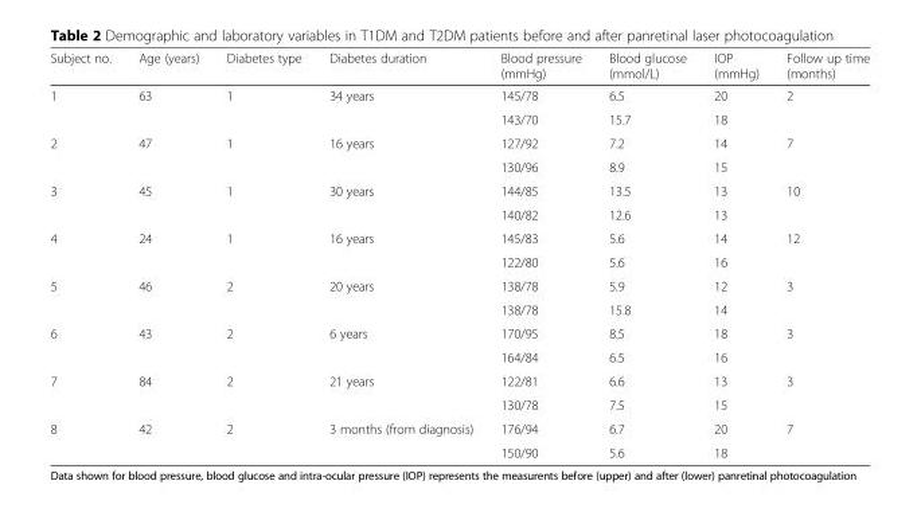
<table><thead><tr><td>Subject no.</td><td>Age (years)</td><td>Diabetes type</td><td>Diabetes duration</td><td>Blood pressure (mmHg)</td><td>Blood glucose (mmol/L)</td><td>IOP (mmHg)</td><td>Follow up time (months)</td></tr></thead><tbody><tr><td rowspan="2">1</td><td rowspan="2">63</td><td rowspan="2">1</td><td rowspan="2">34 years</td><td>145/78</td><td>6.5</td><td>20</td><td rowspan="2">2</td></tr><tr><td>143/70</td><td>15.7</td><td>18</td></tr><tr><td rowspan="2">2</td><td rowspan="2">47</td><td rowspan="2">1</td><td rowspan="2">16 years</td><td>127/92</td><td>7.2</td><td>14</td><td rowspan="2">7</td></tr><tr><td>130/96</td><td>8.9</td><td>15</td></tr><tr><td rowspan="2">3</td><td rowspan="2">45</td><td rowspan="2">1</td><td rowspan="2">30 years</td><td>144/85</td><td>13.5</td><td>13</td><td rowspan="2">10</td></tr><tr><td>140/82</td><td>12.6</td><td>13</td></tr><tr><td rowspan="2">4</td><td rowspan="2">24</td><td rowspan="2">1</td><td rowspan="2">16 years</td><td>145/83</td><td>5.6</td><td>14</td><td rowspan="2">12</td></tr><tr><td>122/80</td><td>5.6</td><td>16</td></tr><tr><td rowspan="2">5</td><td rowspan="2">46</td><td rowspan="2">2</td><td rowspan="2">20 years</td><td>138/78</td><td>5.9</td><td>12</td><td rowspan="2">3</td></tr><tr><td>138/78</td><td>15.8</td><td>14</td></tr><tr><td rowspan="2">6</td><td rowspan="2">43</td><td rowspan="2">2</td><td rowspan="2">6 years</td><td>170/95</td><td>8.5</td><td>18</td><td rowspan="2">3</td></tr><tr><td>164/84</td><td>6.5</td><td>16</td></tr><tr><td rowspan="2">7</td><td rowspan="2">84</td><td rowspan="2">2</td><td rowspan="2">21 years</td><td>122/81</td><td>6.6</td><td>13</td><td rowspan="2">3</td></tr><tr><td>130/78</td><td>7.5</td><td>15</td></tr><tr><td rowspan="2">8</td><td rowspan="2">42</td><td rowspan="2">2</td><td rowspan="2">3 months (from diagnosis)</td><td>176/94</td><td>6.7</td><td>20</td><td rowspan="2">7</td></tr><tr><td>150/90</td><td>5.6</td><td>18</td></tr></tbody></table>